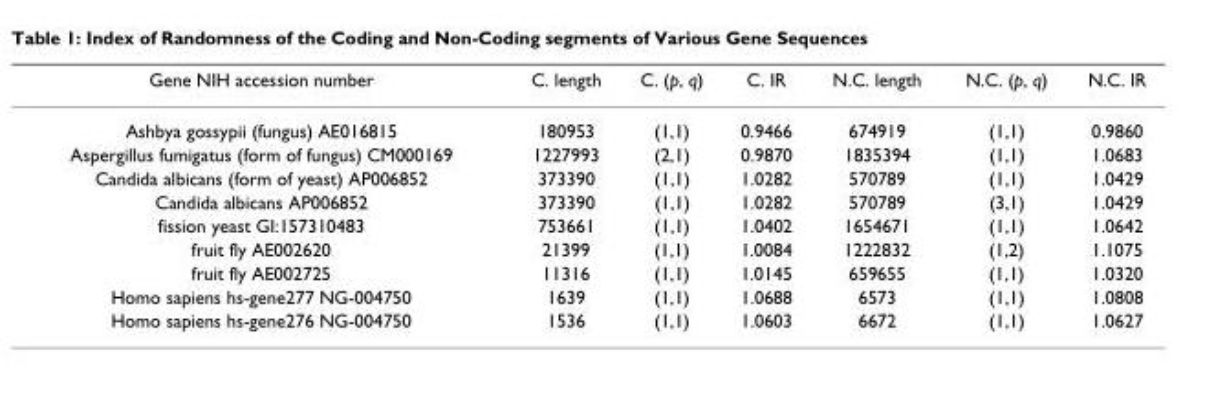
<table><thead><tr><td>Gene NIH accession number</td><td>C. length</td><td>C. (p, q)</td><td>C. IR</td><td>N.C. length</td><td>N.C. (p, q)</td><td>N.C. IR</td></tr></thead><tbody><tr><td>Ashbya gossypii (fungus) AE016815</td><td>180953</td><td>(1,1)</td><td>0.9466</td><td>674919</td><td>(1,1)</td><td>0.9860</td></tr><tr><td>Aspergillus fumigatus (form of fungus) CM000169</td><td>1227993</td><td>(2,1)</td><td>0.9870</td><td>1835394</td><td>(1,1)</td><td>1.0683</td></tr><tr><td>Candida albicans (form of yeast) AP006852</td><td>373390</td><td>(1,1)</td><td>1.0282</td><td>570789</td><td>(1,1)</td><td>1.0429</td></tr><tr><td>Candida albicans AP006852</td><td>373390</td><td>(1,1)</td><td>1.0282</td><td>570789</td><td>(3,1)</td><td>1.0429</td></tr><tr><td>fission yeast GI:157310483</td><td>753661</td><td>(1,1)</td><td>1.0402</td><td>1654671</td><td>(1,1)</td><td>1.0642</td></tr><tr><td>fruit fly AE002620</td><td>21399</td><td>(1,1)</td><td>1.0084</td><td>1222832</td><td>(1,2)</td><td>1.1075</td></tr><tr><td>fruit fly AE002725</td><td>11316</td><td>(1,1)</td><td>1.0145</td><td>659655</td><td>(1,1)</td><td>1.0320</td></tr><tr><td>Homo sapiens hs-gene277 NG-004750</td><td>1639</td><td>(1,1)</td><td>1.0688</td><td>6573</td><td>(1,1)</td><td>1.0808</td></tr><tr><td>Homo sapiens hs-gene276 NG-004750</td><td>1536</td><td>(1,1)</td><td>1.0603</td><td>6672</td><td>(1,1)</td><td>1.0627</td></tr></tbody></table>